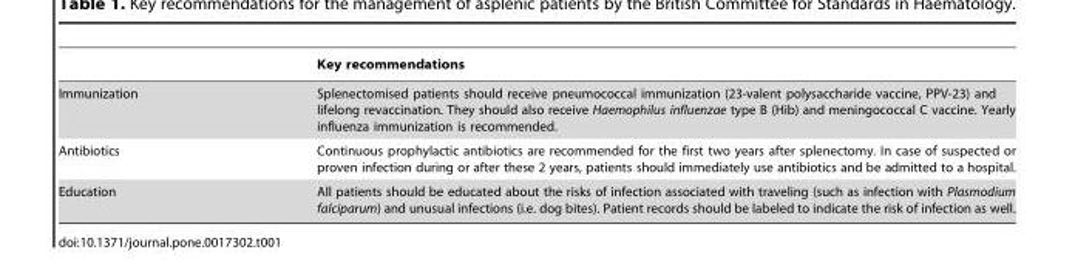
<table><thead><tr><td></td><td>Key recommendations</td></tr></thead><tbody><tr><td>Immunization</td><td>Splenectomised patients should receive pneumococcal immunization (23-valent polysaccharide vaccine, PPV-23) and lifelong revaccination. They should also receive Haemophilus influenzae type B (Hib) and meningococcal C vaccine. Yearly influenza immunization is recommended.</td></tr><tr><td>Antibiotics</td><td>Continuous prophylactic antibiotics are recommended for the first two years after splenectomy. In case of suspected or proven infection during or after these 2 years, patients should immediately use antibiotics and be admitted to a hospital.</td></tr><tr><td>Education</td><td>All patients should be educated about the risks of infection associated with traveling (such as infection with Plasmodium falciparum) and unusual infections (i.e. dog bites). Patient records should be labeled to indicate the risk of infection as well.</td></tr></tbody></table>